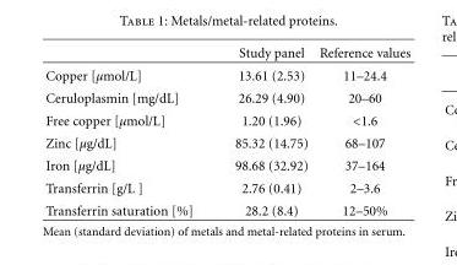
<table><thead><tr><td></td><td>Study panel</td><td>Reference values</td></tr></thead><tbody><tr><td>Copper [μmol/L]</td><td>13.61 (2.53)</td><td>11–24.4</td></tr><tr><td>Ceruloplasmin [mg/dL]</td><td>26.29 (4.90)</td><td>20–60</td></tr><tr><td>Free copper [μmol/L]</td><td>1.20 (1.96)</td><td>&lt;1.6</td></tr><tr><td>Zinc [μg/dL]</td><td>85.32 (14.75)</td><td>68–107</td></tr><tr><td>Iron [μg/dL]</td><td>98.68 (32.92)</td><td>37–164</td></tr><tr><td>Transferrin [g/L ]</td><td>2.76 (0.41)</td><td>2–3.6</td></tr><tr><td>Transferrin saturation [%]</td><td>28.2 (8.4)</td><td>12–50%</td></tr></tbody></table>